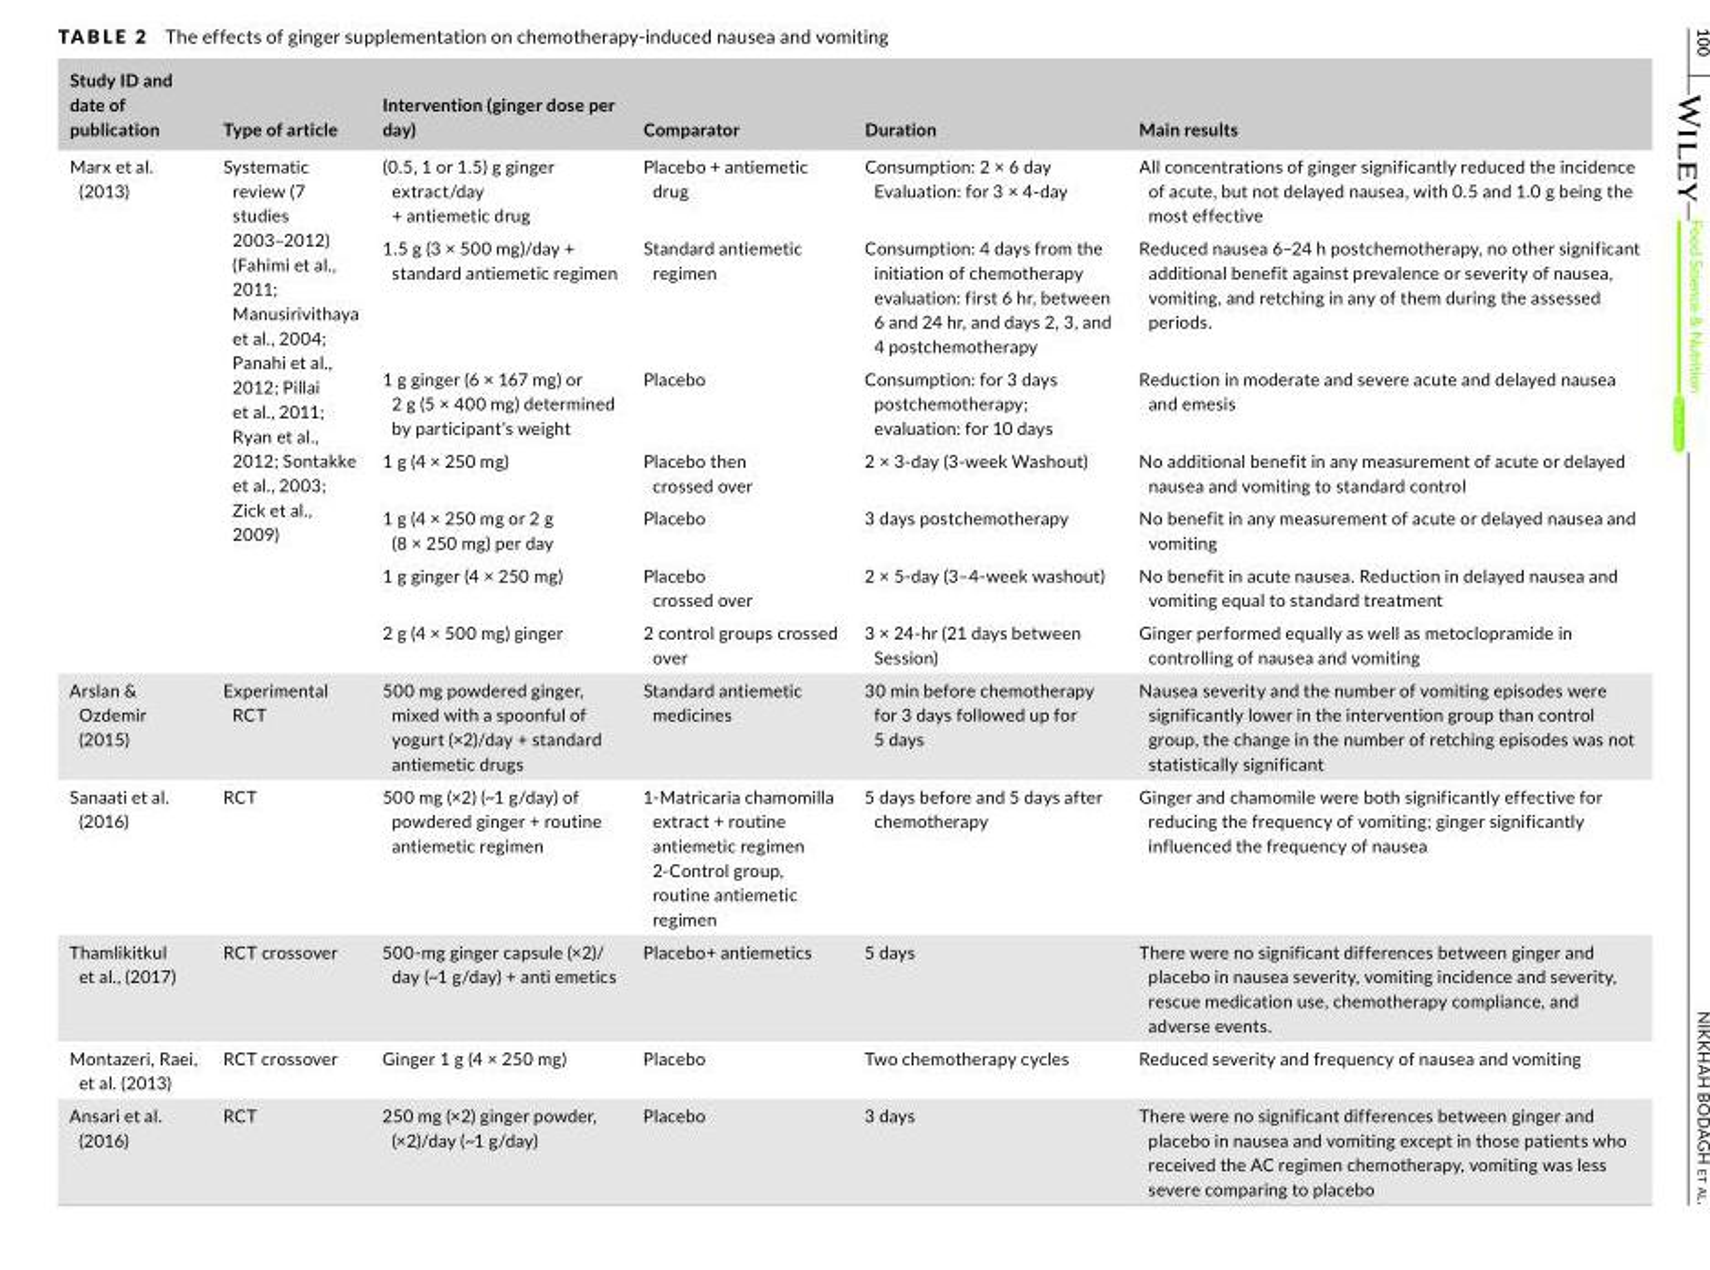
<table><thead><tr><td>Study ID and date of publication</td><td>Type of article</td><td>Intervention (ginger dose per day)</td><td>Comparator</td><td>Duration</td><td>Main results</td></tr></thead><tbody><tr><td rowspan="7">Marx et al. (2013)</td><td rowspan="7">Systematic review (7 studies 2003–2012) (Fahimi et al., 2011; Manusirivithaya et al., 2004; Panahi et al., 2012; Pillai et al., 2011; Ryan et al., 2012; Sontakke et al., 2003; Zick et al., 2009)</td><td>(0.5, 1 or 1.5) g ginger extract/day + antiemetic drug</td><td>Placebo + antiemetic drug</td><td>Consumption: 2 × 6 day Evaluation: for 3 × 4- day</td><td>All concentrations of ginger significantly reduced the incidence of acute, but not delayed nausea, with 0.5 and 1.0 g being the most effective</td></tr><tr><td>1.5 g (3 × 500 mg)/day + standard antiemetic regimen</td><td>Standard antiemetic regimen</td><td>Consumption: 4 days from the initiation of chemotherapy evaluation: first 6 hr, between 6 and 24 hr, and days 2, 3, and 4 postchemotherapy</td><td>Reduced nausea 6–24 h postchemotherapy, no other significant additional benefit against prevalence or severity of nausea, vomiting, and retching in any of them during the assessed periods.</td></tr><tr><td>1 g ginger (6 × 167 mg) or 2 g (5 × 400 mg) determined by participant’s weight</td><td>Placebo</td><td>Consumption: for 3 days postchemotherapy; evaluation: for 10 days</td><td>Reduction in moderate and severe acute and delayed nausea and emesis</td></tr><tr><td>1 g (4 × 250 mg)</td><td>Placebo then crossed over</td><td>2 × 3- day (3- week Washout)</td><td>No additional benefit in any measurement of acute or delayed nausea and vomiting to standard control</td></tr><tr><td>1 g (4 × 250 mg or 2 g (8 × 250 mg) per day</td><td>Placebo</td><td>3 days postchemotherapy</td><td>No benefit in any measurement of acute or delayed nausea and vomiting</td></tr><tr><td>1 g ginger (4 × 250 mg)</td><td>Placebo crossed over</td><td>2 × 5- day (3–4- week washout)</td><td>No benefit in acute nausea. Reduction in delayed nausea and vomiting equal to standard treatment</td></tr><tr><td>2 g (4 × 500 mg) ginger</td><td>2 control groups crossed over</td><td>3 × 24- hr (21 days between Session)</td><td>Ginger performed equally as well as metoclopramide in controlling of nausea and vomiting</td></tr><tr><td>Arslan &amp; Ozdemir (2015)</td><td>Experimental RCT</td><td>500 mg powdered ginger, mixed with a spoonful of yogurt (×2)/day + standard antiemetic drugs</td><td>Standard antiemetic medicines</td><td>30 min before chemotherapy for 3 days followed up for 5 days</td><td>Nausea severity and the number of vomiting episodes were significantly lower in the intervention group than control group, the change in the number of retching episodes was not statistically significant</td></tr><tr><td>Sanaati et al. (2016)</td><td>RCT</td><td>500 mg (×2) (~1 g/day) of powdered ginger + routine antiemetic regimen</td><td>1- Matricaria chamomilla extract + routine antiemetic regimen 2- Control group, routine antiemetic regimen</td><td>5 days before and 5 days after chemotherapy</td><td>Ginger and chamomile were both significantly effective for reducing the frequency of vomiting; ginger significantly influenced the frequency of nausea</td></tr><tr><td>Thamlikitkul et al., (2017)</td><td>RCT crossover</td><td>500- mg ginger capsule (×2)/ day (~1 g/day) + anti emetics</td><td>Placebo+ antiemetics</td><td>5 days</td><td>There were no significant differences between ginger and placebo in nausea severity, vomiting incidence and severity, rescue medication use, chemotherapy compliance, and adverse events.</td></tr><tr><td>Montazeri, Raei, et al. (2013)</td><td>RCT crossover</td><td>Ginger 1 g (4 × 250 mg)</td><td>Placebo</td><td>Two chemotherapy cycles</td><td>Reduced severity and frequency of nausea and vomiting</td></tr><tr><td>Ansari et al. (2016)</td><td>RCT</td><td>250 mg (×2) ginger powder, (×2)/day (~1 g/day)</td><td>Placebo</td><td>3 days</td><td>There were no significant differences between ginger and placebo in nausea and vomiting except in those patients who received the AC regimen chemotherapy, vomiting was less severe comparing to placebo</td></tr></tbody></table>